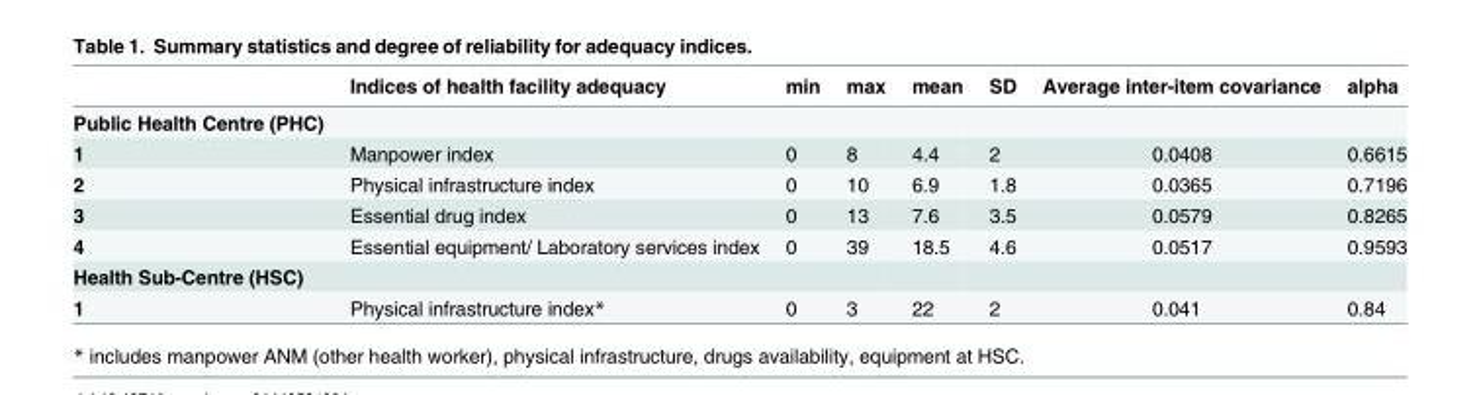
<table><thead><tr><td></td><td>Indices of health facility adequacy</td><td>min</td><td>max</td><td>mean</td><td>SD</td><td>Average inter-item covariance</td><td>alpha</td></tr></thead><tbody><tr><td colspan="8">Public Health Centre (PHC)</td></tr><tr><td>1</td><td>Manpower index</td><td>0</td><td>8</td><td>4.4</td><td>2</td><td>0.0408</td><td>0.6615</td></tr><tr><td>2</td><td>Physical infrastructure index</td><td>0</td><td>10</td><td>6.9</td><td>1.8</td><td>0.0365</td><td>0.7196</td></tr><tr><td>3</td><td>Essential drug index</td><td>0</td><td>13</td><td>7.6</td><td>3.5</td><td>0.0579</td><td>0.8265</td></tr><tr><td>4</td><td>Essential equipment/ Laboratory services index</td><td>0</td><td>39</td><td>18.5</td><td>4.6</td><td>0.0517</td><td>0.9593</td></tr><tr><td colspan="8">Health Sub-Centre (HSC)</td></tr><tr><td>1</td><td>Physical infrastructure index*</td><td>0</td><td>3</td><td>22</td><td>2</td><td>0.041</td><td>0.84</td></tr></tbody></table>